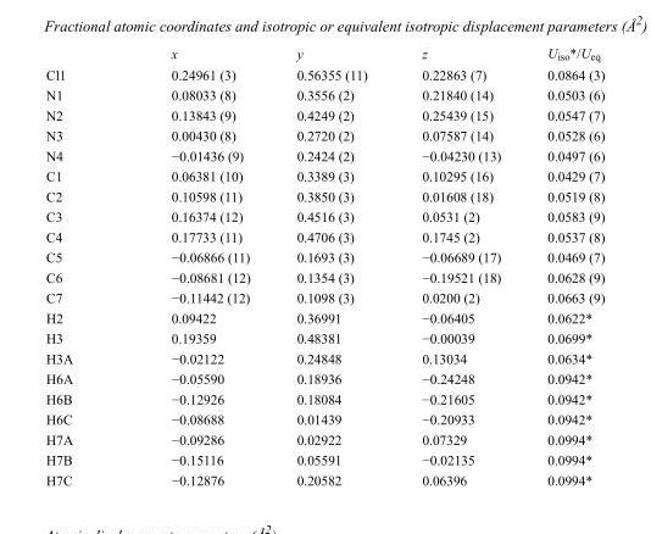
<table><thead><tr><td></td><td>x</td><td>y</td><td>z</td><td>U<sub>iso</sub>*/U<sub>eq</sub></td></tr></thead><tbody><tr><td>Cl1</td><td>0.24961 (3)</td><td>0.56355 (11)</td><td>0.22863 (7)</td><td>0.0864 (3)</td></tr><tr><td>N1</td><td>0.08033 (8)</td><td>0.3556 (2)</td><td>0.21840 (14)</td><td>0.0503 (6)</td></tr><tr><td>N2</td><td>0.13843 (9)</td><td>0.4249 (2)</td><td>0.25439 (15)</td><td>0.0547 (7)</td></tr><tr><td>N3</td><td>0.00430 (8)</td><td>0.2720 (2)</td><td>0.07587 (14)</td><td>0.0528 (6)</td></tr><tr><td>N4</td><td>−0.01436 (9)</td><td>0.2424 (2)</td><td>−0.04230 (13)</td><td>0.0497 (6)</td></tr><tr><td>C1</td><td>0.06381 (10)</td><td>0.3389 (3)</td><td>0.10295 (16)</td><td>0.0429 (7)</td></tr><tr><td>C2</td><td>0.10598 (11)</td><td>0.3850 (3)</td><td>0.01608 (18)</td><td>0.0519 (8)</td></tr><tr><td>C3</td><td>0.16374 (12)</td><td>0.4516 (3)</td><td>0.0531 (2)</td><td>0.0583 (9)</td></tr><tr><td>C4</td><td>0.17733 (11)</td><td>0.4706 (3)</td><td>0.1745 (2)</td><td>0.0537 (8)</td></tr><tr><td>C5</td><td>−0.06866 (11)</td><td>0.1693 (3)</td><td>−0.06689 (17)</td><td>0.0469 (7)</td></tr><tr><td>C6</td><td>−0.08681 (12)</td><td>0.1354 (3)</td><td>−0.19521 (18)</td><td>0.0628 (9)</td></tr><tr><td>C7</td><td>−0.11442 (12)</td><td>0.1098 (3)</td><td>0.0200 (2)</td><td>0.0663 (9)</td></tr><tr><td>H2</td><td>0.09422</td><td>0.36991</td><td>−0.06405</td><td>0.0622*</td></tr><tr><td>H3</td><td>0.19359</td><td>0.48381</td><td>−0.00039</td><td>0.0699*</td></tr><tr><td>H3A</td><td>−0.02122</td><td>0.24848</td><td>0.13034</td><td>0.0634*</td></tr><tr><td>H6A</td><td>−0.05590</td><td>0.18936</td><td>−0.24248</td><td>0.0942*</td></tr><tr><td>H6B</td><td>−0.12926</td><td>0.18084</td><td>−0.21605</td><td>0.0942*</td></tr><tr><td>H6C</td><td>−0.08688</td><td>0.01439</td><td>−0.20933</td><td>0.0942*</td></tr><tr><td>H7A</td><td>−0.09286</td><td>0.02922</td><td>0.07329</td><td>0.0994*</td></tr><tr><td>H7B</td><td>−0.15116</td><td>0.05591</td><td>−0.02135</td><td>0.0994*</td></tr><tr><td>H7C</td><td>−0.12876</td><td>0.20582</td><td>0.06396</td><td>0.0994*</td></tr></tbody></table>